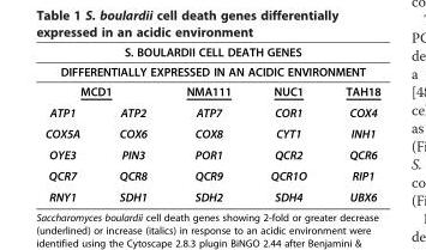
<table><thead><tr><td rowspan="2" colspan="5">S. BOULARDII CELL DEATH GENES DIFFERENTIALLY EXPRESSED IN AN ACIDIC ENVIRONMENT</td></tr><tr></tr><tr><td colspan="2">MCD1</td><td rowspan="2">NMA111 ATP7</td><td rowspan="2">NUC1 COR1</td><td rowspan="2">TAH18 COX4</td></tr><tr><td>ATP1</td><td>ATP2</td></tr></thead><tbody><tr><td>COX5A</td><td>COX6</td><td>COX8</td><td>CYT1</td><td>INH1</td></tr><tr><td>OYE3</td><td>PIN3</td><td>POR1</td><td>QCR2</td><td>QCR6</td></tr><tr><td>QCR7</td><td>QCR8</td><td>QCR9</td><td>QCR1O</td><td>RIP1</td></tr><tr><td>RNY1</td><td>SDH1</td><td>SDH2</td><td>SDH4</td><td>UBX6</td></tr></tbody></table>